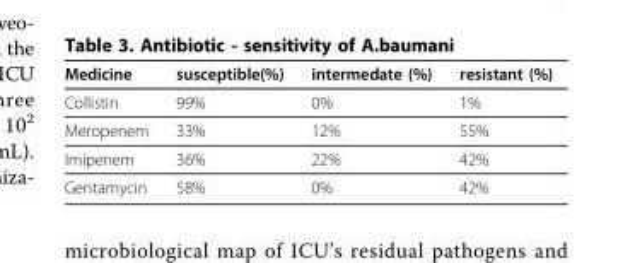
<table><thead><tr><td>Medicine</td><td>susceptible(%)</td><td>intermedate (%)</td><td>resistant (%)</td></tr></thead><tbody><tr><td>Collistin</td><td>99%</td><td>0%</td><td>1%</td></tr><tr><td>Meropenem</td><td>33%</td><td>12%</td><td>55%</td></tr><tr><td>Imipenem</td><td>36%</td><td>22%</td><td>42%</td></tr><tr><td>Gentamycin</td><td>58%</td><td>0%</td><td>42%</td></tr></tbody></table>